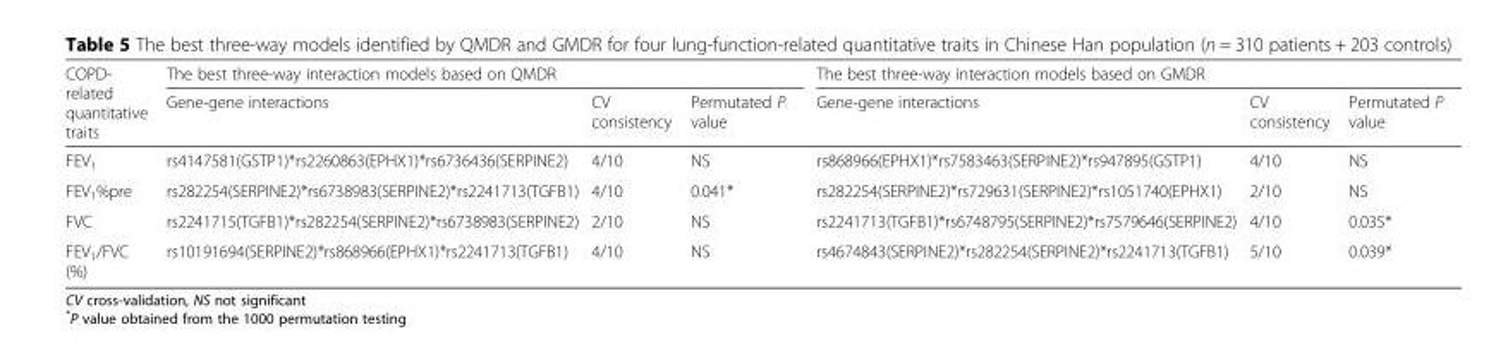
<table><thead><tr><td rowspan="2">COPD- related quantitative traits</td><td colspan="3">The best three-way interaction models based on QMDR</td><td colspan="3">The best three-way interaction models based on GMDR</td></tr><tr><td>Gene-gene interactions</td><td>CV consistency</td><td>Permutated P value</td><td>Gene-gene interactions</td><td>CV consistency</td><td>Permutated P value</td></tr></thead><tbody><tr><td>FEV<sub>1</sub></td><td>rs4147581(GSTP1)*rs2260863(EPHX1)*rs6736436(SERPINE2)</td><td>4/10</td><td>NS</td><td>rs868966(EPHX1)*rs7583463(SERPINE2)*rs947895(GSTP1)</td><td>4/10</td><td>NS</td></tr><tr><td>FEV<sub>1</sub>%pre</td><td>rs282254(SERPINE2)*rs6738983(SERPINE2)*rs2241713(TGFB1)</td><td>4/10</td><td>0.041*</td><td>rs282254(SERPINE2)*rs729631(SERPINE2)*rs1051740(EPHX1)</td><td>2/10</td><td>NS</td></tr><tr><td>FVC</td><td>rs2241715(TGFB1)*rs282254(SERPINE2)*rs6738983(SERPINE2)</td><td>2/10</td><td>NS</td><td>rs2241713(TGFB1)*rs6748795(SERPINE2)*rs7579646(SERPINE2)</td><td>4/10</td><td>0.035*</td></tr><tr><td>FEV<sub>1</sub>/FVC (%)</td><td>rs10191694(SERPINE2)*rs868966(EPHX1)*rs2241713(TGFB1)</td><td>4/10</td><td>NS</td><td>rs4674843(SERPINE2)*rs282254(SERPINE2)*rs2241713(TGFB1)</td><td>5/10</td><td>0.039*</td></tr></tbody></table>